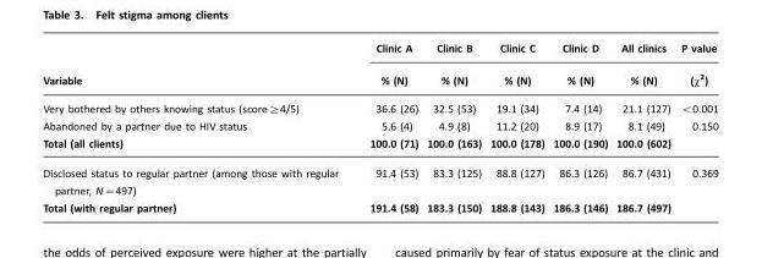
<table><thead><tr><td rowspan="2">Variable</td><td rowspan="2">Clinic A % (N)</td><td rowspan="2">Clinic B % (N)</td><td rowspan="2">Clinic C % (N)</td><td rowspan="2">Clinic D % (N)</td><td rowspan="2">All clinics % (N)</td><td rowspan="2">P value (χ<sup>2</sup>)</td></tr><tr></tr></thead><tbody><tr><td>Very bothered by others knowing status (score≥4/5)</td><td>36.6 (26)</td><td>32.5 (53)</td><td>19.1 (34)</td><td>7.4 (14)</td><td>21.1 (127)</td><td>&lt;0.001</td></tr><tr><td>Abandoned by a partner due to HIV status</td><td>5.6 (4)</td><td>4.9 (8)</td><td>11.2 (20)</td><td>8.9 (17)</td><td>8.1 (49)</td><td>0.150</td></tr><tr><td>Total (all clients)</td><td>100.0 (71)</td><td>100.0 (163)</td><td>100.0 (178)</td><td>100.0 (190)</td><td>100.0 (602)</td><td></td></tr><tr><td>Disclosed status to regular partner (among those with regular partner, N=497)</td><td>91.4 (53)</td><td>83.3 (125)</td><td>88.8 (127)</td><td>86.3 (126)</td><td>86.7 (431)</td><td>0.369</td></tr><tr><td>Total (with regular partner)</td><td>191.4 (58)</td><td>183.3 (150)</td><td>188.8 (143)</td><td>186.3 (146)</td><td>186.7 (497)</td><td></td></tr></tbody></table>